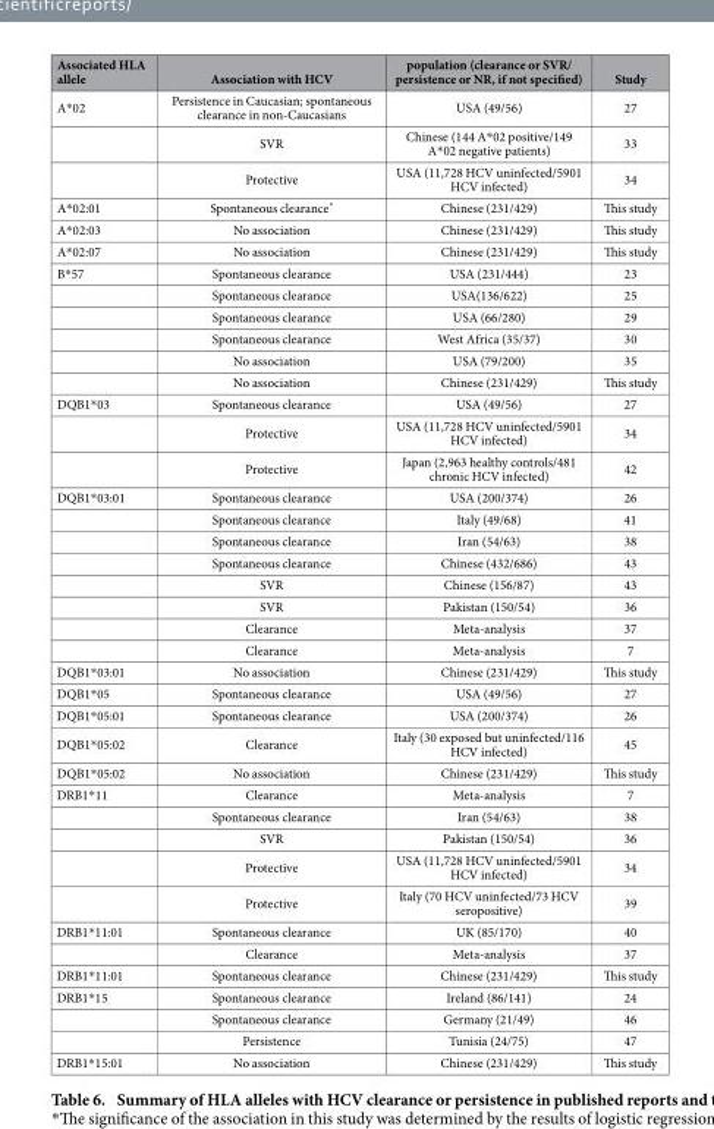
<table><thead><tr><td>Associated HLA allele</td><td>Association with HCV</td><td>population (clearance or SVR/ persistence or NR, if not specified)</td><td>Study</td></tr></thead><tbody><tr><td rowspan="3">A*02</td><td>Persistence in Caucasian; spontaneous clearance in non-Caucasians</td><td>USA (49/56)</td><td>27</td></tr><tr><td>SVR</td><td>Chinese (144 A*02 positive/149 A*02 negative patients)</td><td>33</td></tr><tr><td>Protective</td><td>USA (11,728 HCV uninfected/5901 HCV infected)</td><td>34</td></tr><tr><td>A*02:01</td><td>Spontaneous clearance*</td><td>Chinese (231/429)</td><td>This study</td></tr><tr><td>A*02:03</td><td>No association</td><td>Chinese (231/429)</td><td>This study</td></tr><tr><td>A*02:07</td><td>No association</td><td>Chinese (231/429)</td><td>This study</td></tr><tr><td rowspan="6">B*57</td><td>Spontaneous clearance</td><td>USA (231/444)</td><td>23</td></tr><tr><td>Spontaneous clearance</td><td>USA(136/622)</td><td>25</td></tr><tr><td>Spontaneous clearance</td><td>USA (66/280)</td><td>29</td></tr><tr><td>Spontaneous clearance</td><td>West Africa (35/37)</td><td>30</td></tr><tr><td>No association</td><td>USA (79/200)</td><td>35</td></tr><tr><td>No association</td><td>Chinese (231/429)</td><td>This study</td></tr><tr><td rowspan="3">DQB1*03</td><td>Spontaneous clearance</td><td>USA (49/56)</td><td>27</td></tr><tr><td>Protective</td><td>USA (11,728 HCV uninfected/5901 HCV infected)</td><td>34</td></tr><tr><td>Protective</td><td>Japan (2,963 healthy controls/481 chronic HCV infected)</td><td>42</td></tr><tr><td rowspan="8">DQB1*03:01</td><td>Spontaneous clearance</td><td>USA (200/374)</td><td>26</td></tr><tr><td>Spontaneous clearance</td><td>Italy (49/68)</td><td>41</td></tr><tr><td>Spontaneous clearance</td><td>Iran (54/63)</td><td>38</td></tr><tr><td>Spontaneous clearance</td><td>Chinese (432/686)</td><td>43</td></tr><tr><td>SVR</td><td>Chinese (156/87)</td><td>43</td></tr><tr><td>SVR</td><td>Pakistan (150/54)</td><td>36</td></tr><tr><td>Clearance</td><td>Meta-analysis</td><td>37</td></tr><tr><td>Clearance</td><td>Meta-analysis</td><td>7</td></tr><tr><td>DQB1*03:01</td><td>No association</td><td>Chinese (231/429)</td><td>This study</td></tr><tr><td>DQB1*05</td><td>Spontaneous clearance</td><td>USA (49/56)</td><td>27</td></tr><tr><td>DQB1*05:01</td><td>Spontaneous clearance</td><td>USA (200/374)</td><td>26</td></tr><tr><td>DQB1*05:02</td><td>Clearance</td><td>Italy (30 exposed but uninfected/116 HCV infected)</td><td>45</td></tr><tr><td>DQB1*05:02</td><td>No association</td><td>Chinese (231/429)</td><td>This study</td></tr><tr><td rowspan="5">DRB1*11</td><td>Clearance</td><td>Meta-analysis</td><td>7</td></tr><tr><td>Spontaneous clearance</td><td>Iran (54/63)</td><td>38</td></tr><tr><td>SVR</td><td>Pakistan (150/54)</td><td>36</td></tr><tr><td>Protective</td><td>USA (11,728 HCV uninfected/5901 HCV infected)</td><td>34</td></tr><tr><td>Protective</td><td>Italy (70 HCV uninfected/73 HCV seropositive)</td><td>39</td></tr><tr><td rowspan="2">DRB1*11:01</td><td>Spontaneous clearance</td><td>UK (85/170)</td><td>40</td></tr><tr><td>Clearance</td><td>Meta-analysis</td><td>37</td></tr><tr><td>DRB1*11:01</td><td>Spontaneous clearance</td><td>Chinese (231/429)</td><td>This study</td></tr><tr><td rowspan="3">DRB1*15</td><td>Spontaneous clearance</td><td>Ireland (86/141)</td><td>24</td></tr><tr><td>Spontaneous clearance</td><td>Germany (21/49)</td><td>46</td></tr><tr><td>Persistence</td><td>Tunisia (24/75)</td><td>47</td></tr><tr><td>DRB1*15:01</td><td>No association</td><td>Chinese (231/429)</td><td>This study</td></tr></tbody></table>